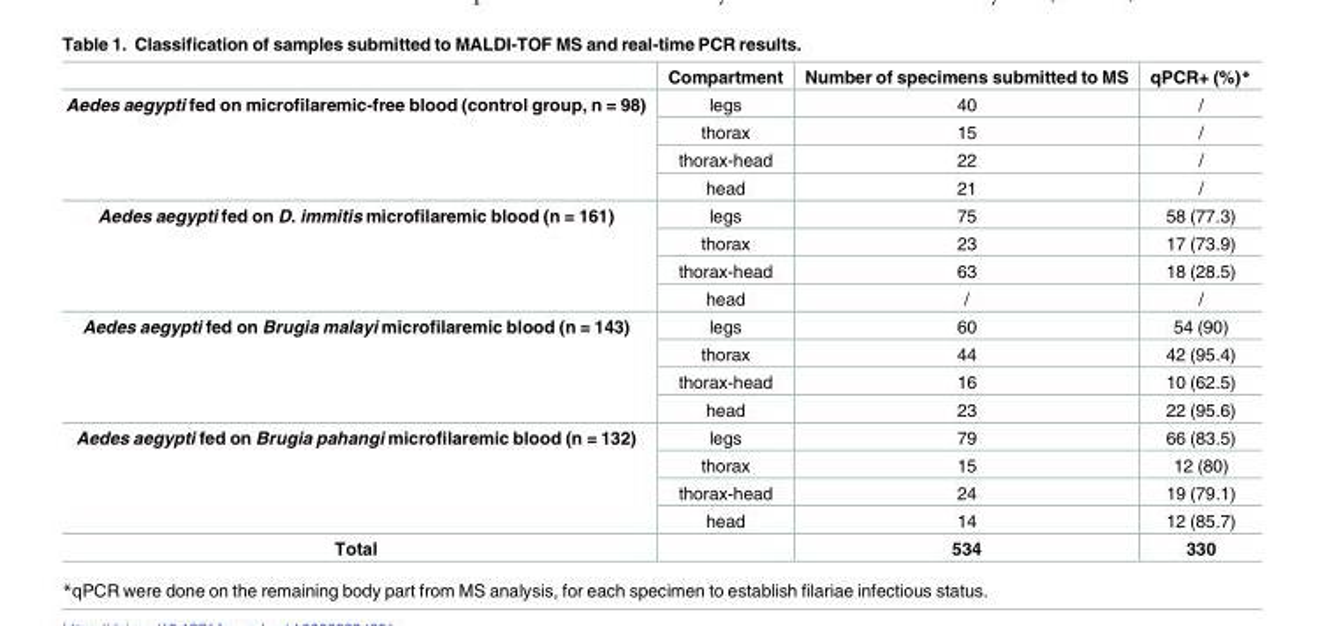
<table><thead><tr><td></td><td>Compartment</td><td>Number of specimens submitted to MS</td><td>qPCR+ (%)*</td></tr></thead><tbody><tr><td rowspan="4">Aedes aegypti fed on microfilaremic-free blood (control group, n = 98)</td><td>legs</td><td>40</td><td>/</td></tr><tr><td>thorax</td><td>15</td><td>/</td></tr><tr><td>thorax-head</td><td>22</td><td>/</td></tr><tr><td>head</td><td>21</td><td>/</td></tr><tr><td rowspan="4">Aedes aegypti fed on D. immitis microfilaremic blood (n = 161)</td><td>legs</td><td>75</td><td>58 (77.3)</td></tr><tr><td>thorax</td><td>23</td><td>17 (73.9)</td></tr><tr><td>thorax-head</td><td>63</td><td>18 (28.5)</td></tr><tr><td>head</td><td>/</td><td>/</td></tr><tr><td rowspan="4">Aedes aegypti fed on Brugia malayi microfilaremic blood (n = 143)</td><td>legs</td><td>60</td><td>54 (90)</td></tr><tr><td>thorax</td><td>44</td><td>42 (95.4)</td></tr><tr><td>thorax-head</td><td>16</td><td>10 (62.5)</td></tr><tr><td>head</td><td>23</td><td>22 (95.6)</td></tr><tr><td rowspan="4">Aedes aegypti fed on Brugia pahangi microfilaremic blood (n = 132)</td><td>legs</td><td>79</td><td>66 (83.5)</td></tr><tr><td>thorax</td><td>15</td><td>12 (80)</td></tr><tr><td>thorax-head</td><td>24</td><td>19 (79.1)</td></tr><tr><td>head</td><td>14</td><td>12 (85.7)</td></tr><tr><td>Total</td><td></td><td>534</td><td>330</td></tr></tbody></table>